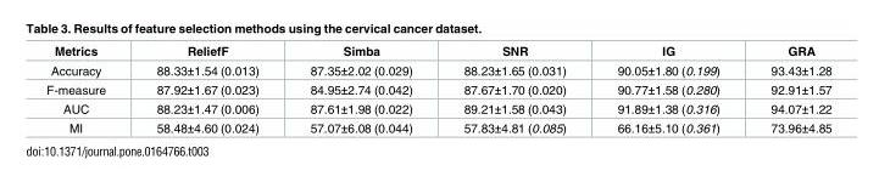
<table><thead><tr><td>Metrics</td><td>ReliefF</td><td>Simba</td><td>SNR</td><td>IG</td><td>GRA</td></tr></thead><tbody><tr><td>Accuracy</td><td>88.33±1.54 (0.013)</td><td>87.35±2.02 (0.029)</td><td>88.23±1.65 (0.031)</td><td>90.05±1.80 (0.199)</td><td>93.43±1.28</td></tr><tr><td>F-measure</td><td>87.92±1.67 (0.023)</td><td>84.95±2.74 (0.042)</td><td>87.67±1.70 (0.020)</td><td>90.77±1.58 (0.280)</td><td>92.91±1.57</td></tr><tr><td>AUC</td><td>88.23±1.47 (0.006)</td><td>87.61±1.98 (0.022)</td><td>89.21±1.58 (0.043)</td><td>91.89±1.38 (0.316)</td><td>94.07±1.22</td></tr><tr><td>MI</td><td>58.48±4.60 (0.024)</td><td>57.07±6.08 (0.044)</td><td>57.83±4.81 (0.085)</td><td>66.16±5.10 (0.361)</td><td>73.96±4.85</td></tr></tbody></table>